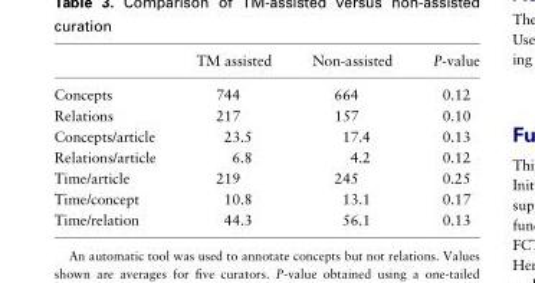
<table><thead><tr><td></td><td>TM assisted</td><td>Non-assisted</td><td>P-value</td></tr></thead><tbody><tr><td>Concepts</td><td>744</td><td>664</td><td>0.12</td></tr><tr><td>Relations</td><td>217</td><td>157</td><td>0.10</td></tr><tr><td>Concepts/article</td><td>23.5</td><td>17.4</td><td>0.13</td></tr><tr><td>Relations/article</td><td>6.8</td><td>4.2</td><td>0.12</td></tr><tr><td>Time/article</td><td>219</td><td>245</td><td>0.25</td></tr><tr><td>Time/concept</td><td>10.8</td><td>13.1</td><td>0.17</td></tr><tr><td>Time/relation</td><td>44.3</td><td>56.1</td><td>0.13</td></tr></tbody></table>